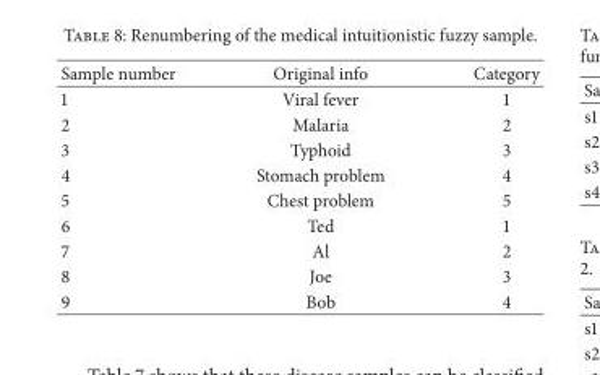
<table><thead><tr><td>Sample number</td><td>Original info</td><td>Category</td></tr></thead><tbody><tr><td>1</td><td>Viral fever</td><td>1</td></tr><tr><td>2</td><td>Malaria</td><td>2</td></tr><tr><td>3</td><td>Typhoid</td><td>3</td></tr><tr><td>4</td><td>Stomach problem</td><td>4</td></tr><tr><td>5</td><td>Chest problem</td><td>5</td></tr><tr><td>6</td><td>Ted</td><td>1</td></tr><tr><td>7</td><td>Al</td><td>2</td></tr><tr><td>8</td><td>Joe</td><td>3</td></tr><tr><td>9</td><td>Bob</td><td>4</td></tr></tbody></table>